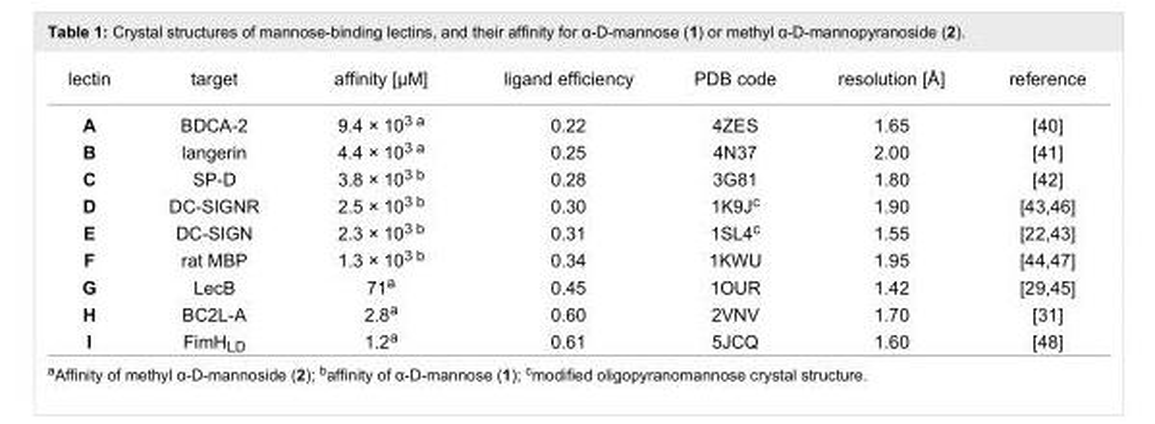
<table><tbody><tr><td>lectin</td><td>target</td><td>affinity [µM]</td><td>ligand efficiency</td><td>PDB code</td><td>resolution [Å]</td><td>reference</td></tr><tr><td>A</td><td>BDCA-2</td><td>9.4 × 10<sup>3 a</sup></td><td>0.22</td><td>4ZES</td><td>1.65</td><td>[40]</td></tr><tr><td>B</td><td>langerin</td><td>4.4 × 10<sup>3 a</sup></td><td>0.25</td><td>4N37</td><td>2.00</td><td>[41]</td></tr><tr><td>C</td><td>SP-D</td><td>3.8 × 10<sup>3 b</sup></td><td>0.28</td><td>3G81</td><td>1.80</td><td>[42]</td></tr><tr><td>D</td><td>DC-SIGNR</td><td>2.5 × 10<sup>3 b</sup></td><td>0.30</td><td>1K9J<sup>c</sup></td><td>1.90</td><td>[43,46]</td></tr><tr><td>E</td><td>DC-SIGN</td><td>2.3 × 10<sup>3 b</sup></td><td>0.31</td><td>1SL4<sup>c</sup></td><td>1.55</td><td>[22,43]</td></tr><tr><td>F</td><td>rat MBP</td><td>1.3 × 10<sup>3 b</sup></td><td>0.34</td><td>1KWU</td><td>1.95</td><td>[44,47]</td></tr><tr><td>G</td><td>LecB</td><td>71<sup>a</sup></td><td>0.45</td><td>1OUR</td><td>1.42</td><td>[29,45]</td></tr><tr><td>H</td><td>BC2L-A</td><td>2.8<sup>a</sup></td><td>0.60</td><td>2VNV</td><td>1.70</td><td>[31]</td></tr><tr><td>I</td><td>FimH<sub>LD</sub></td><td>1.2<sup>a</sup></td><td>0.61</td><td>5JCQ</td><td>1.60</td><td>[48]</td></tr></tbody></table>